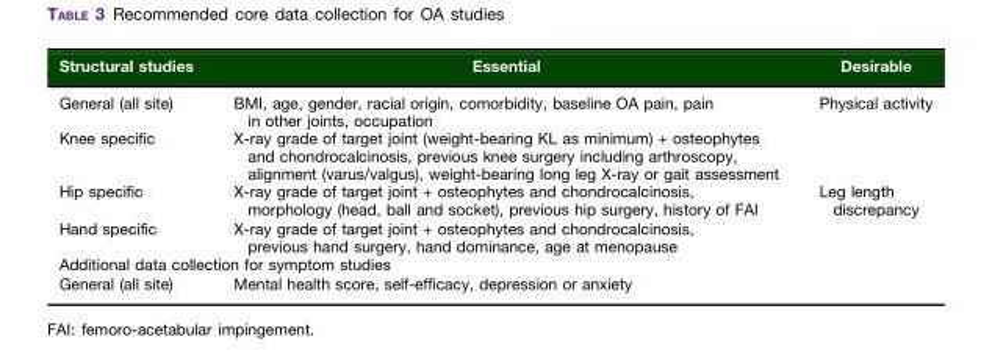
<table><thead><tr><td>Structural studies</td><td>Essential</td><td>Desirable</td></tr></thead><tbody><tr><td>General (all site)</td><td>BMI, age, gender, racial origin, comorbidity, baseline OA pain, pain in other joints, occupation</td><td>Physical activity</td></tr><tr><td>Knee specific</td><td>X-ray grade of target joint (weight-bearing KL as minimum) + osteophytes and chondrocalcinosis, previous knee surgery including arthroscopy, alignment (varus/valgus), weight-bearing long leg X-ray or gait assessment</td><td></td></tr><tr><td>Hip specific</td><td>X-ray grade of target joint + osteophytes and chondrocalcinosis, morphology (head, ball and socket), previous hip surgery, history of FAI</td><td>Leg length discrepancy</td></tr><tr><td>Hand specific</td><td>X-ray grade of target joint + osteophytes and chondrocalcinosis, previous hand surgery, hand dominance, age at menopause</td><td></td></tr><tr><td colspan="3">Additional data collection for symptom studies</td></tr><tr><td>General (all site)</td><td>Mental health score, self-efficacy, depression or anxiety</td><td></td></tr></tbody></table>